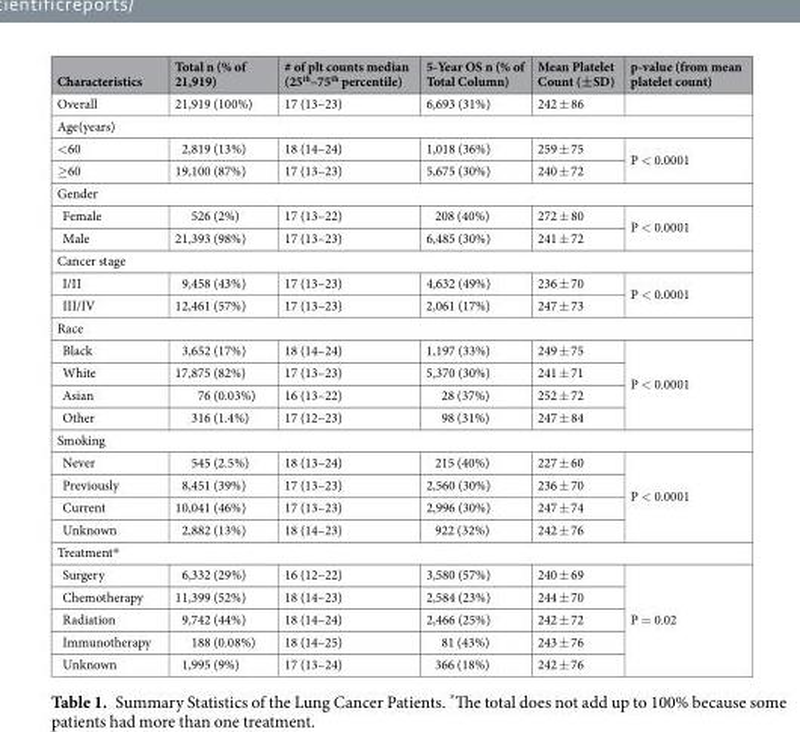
<table><thead><tr><td>Characteristics</td><td>Total n (% of 21,919)</td><td># of plt counts median (25<sup>th</sup>–75<sup>th</sup> percentile)</td><td>5-Year OS n (% of Total Column)</td><td>Mean Platelet Count (±SD)</td><td>p-value (from mean platelet count)</td></tr></thead><tbody><tr><td>Overall</td><td>21,919 (100%)</td><td>17 (13–23)</td><td>6,693 (31%)</td><td>242 ± 86</td><td></td></tr><tr><td colspan="6">Age(years)</td></tr><tr><td>&lt;60</td><td>2,819 (13%)</td><td>18 (14–24)</td><td>1,018 (36%)</td><td>259 ± 75</td><td rowspan="2">P &lt; 0.0001</td></tr><tr><td>≥60</td><td>19,100 (87%)</td><td>17 (13–23)</td><td>5,675 (30%)</td><td>240 ± 72</td></tr><tr><td colspan="6">Gender</td></tr><tr><td>Female</td><td>526 (2%)</td><td>17 (13–22)</td><td>208 (40%)</td><td>272 ± 80</td><td rowspan="2">P &lt; 0.0001</td></tr><tr><td>Male</td><td>21,393 (98%)</td><td>17 (13–23)</td><td>6,485 (30%)</td><td>241 ± 72</td></tr><tr><td colspan="6">Cancer stage</td></tr><tr><td>I/II</td><td>9,458 (43%)</td><td>17 (13–23)</td><td>4,632 (49%)</td><td>236 ± 70</td><td rowspan="2">P &lt; 0.0001</td></tr><tr><td>III/IV</td><td>12,461 (57%)</td><td>17 (13–23)</td><td>2,061 (17%)</td><td>247 ± 73</td></tr><tr><td colspan="6">Race</td></tr><tr><td>Black</td><td>3,652 (17%)</td><td>18 (14–24)</td><td>1,197 (33%)</td><td>249 ± 75</td><td rowspan="4">P &lt; 0.0001</td></tr><tr><td>White</td><td>17,875 (82%)</td><td>17 (13–23)</td><td>5,370 (30%)</td><td>241 ± 71</td></tr><tr><td>Asian</td><td>76 (0.03%)</td><td>16 (13–22)</td><td>28 (37%)</td><td>252 ± 72</td></tr><tr><td>Other</td><td>316 (1.4%)</td><td>17 (12–23)</td><td>98 (31%)</td><td>247 ± 84</td></tr><tr><td colspan="6">Smoking</td></tr><tr><td>Never</td><td>545 (2.5%)</td><td>18 (13–24)</td><td>215 (40%)</td><td>227 ± 60</td><td rowspan="4">P &lt; 0.0001</td></tr><tr><td>Previously</td><td>8,451 (39%)</td><td>17 (13–23)</td><td>2,560 (30%)</td><td>236 ± 70</td></tr><tr><td>Current</td><td>10,041 (46%)</td><td>17 (13–23)</td><td>2,996 (30%)</td><td>247 ± 74</td></tr><tr><td>Unknown</td><td>2,882 (13%)</td><td>18 (14–23)</td><td>922 (32%)</td><td>242 ± 76</td></tr><tr><td colspan="6">Treatment*</td></tr><tr><td>Surgery</td><td>6,332 (29%)</td><td>16 (12–22)</td><td>3,580 (57%)</td><td>240 ± 69</td><td rowspan="5">P = 0.02</td></tr><tr><td>Chemotherapy</td><td>11,399 (52%)</td><td>18 (14–23)</td><td>2,584 (23%)</td><td>244 ± 70</td></tr><tr><td>Radiation</td><td>9,742 (44%)</td><td>18 (14–24)</td><td>2,466 (25%)</td><td>242 ± 72</td></tr><tr><td>Immunotherapy</td><td>188 (0.08%)</td><td>18 (14–25)</td><td>81 (43%)</td><td>243 ± 76</td></tr><tr><td>Unknown</td><td>1,995 (9%)</td><td>17 (13–24)</td><td>366 (18%)</td><td>242 ± 76</td></tr></tbody></table>